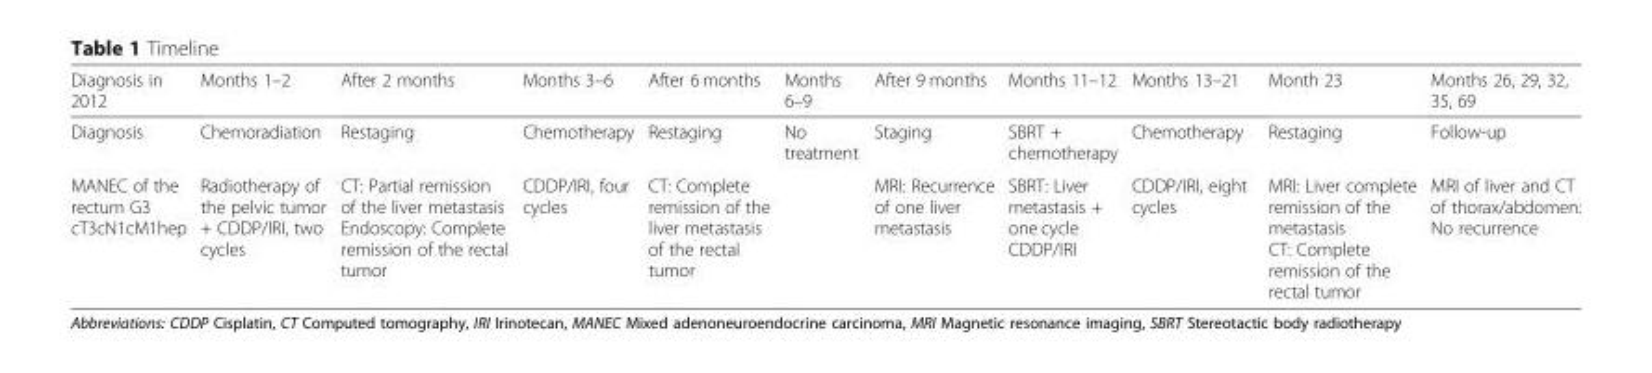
<table><thead><tr><td>Diagnosis in 2012</td><td>Months 1–2</td><td>After 2 months</td><td>Months 3–6</td><td>After 6 months</td><td>Months 6–9</td><td>After 9 months</td><td>Months 11–12</td><td>Months 13–21</td><td>Month 23</td><td>Months 26, 29, 32, 35, 69</td></tr></thead><tbody><tr><td>Diagnosis</td><td>Chemoradiation</td><td>Restaging</td><td>Chemotherapy</td><td>Restaging</td><td>No treatment</td><td>Staging</td><td>SBRT + chemotherapy</td><td>Chemotherapy</td><td>Restaging</td><td>Follow-up</td></tr><tr><td>MANEC of the rectum G3 cT3cN1cM1hep</td><td>Radiotherapy of the pelvic tumor + CDDP/IRI, two cycles</td><td>CT: Partial remission of the liver metastasis Endoscopy: Complete remission of the rectal tumor</td><td>CDDP/IRI, four cycles</td><td>CT: Complete remission of the liver metastasis of the rectal tumor</td><td></td><td>MRI: Recurrence of one liver metastasis</td><td>SBRT: Liver metastasis + one cycle CDDP/IRI</td><td>CDDP/IRI, eight cycles</td><td>MRI: Liver complete remission of the metastasis CT: Complete remission of the rectal tumor</td><td>MRI of liver and CT of thorax/abdomen: No recurrence</td></tr></tbody></table>